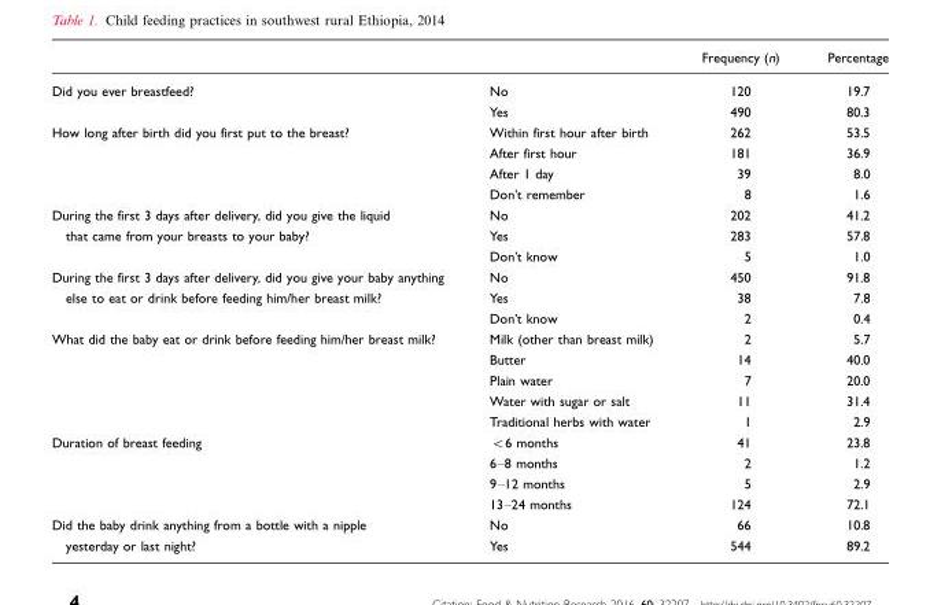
<table><thead><tr><td></td><td></td><td>Frequency (n)</td><td>Percentage</td></tr></thead><tbody><tr><td rowspan="2">Did you ever breastfeed?</td><td>No</td><td>120</td><td>19.7</td></tr><tr><td>Yes</td><td>490</td><td>80.3</td></tr><tr><td rowspan="4">How long after birth did you first put to the breast?</td><td>Within first hour after birth</td><td>262</td><td>53.5</td></tr><tr><td>After first hour</td><td>181</td><td>36.9</td></tr><tr><td>After 1 day</td><td>39</td><td>8.0</td></tr><tr><td>Don’t remember</td><td>8</td><td>1.6</td></tr><tr><td>During the first 3 days after delivery, did you give the liquid</td><td>No</td><td>202</td><td>41.2</td></tr><tr><td rowspan="2">that came from your breasts to your baby?</td><td>Yes</td><td>283</td><td>57.8</td></tr><tr><td>Don’t know</td><td>5</td><td>1.0</td></tr><tr><td>During the first 3 days after delivery, did you give your baby anything</td><td>No</td><td>450</td><td>91.8</td></tr><tr><td rowspan="2">else to eat or drink before feeding him/her breast milk?</td><td>Yes</td><td>38</td><td>7.8</td></tr><tr><td>Don’t know</td><td>2</td><td>0.4</td></tr><tr><td rowspan="5">What did the baby eat or drink before feeding him/her breast milk?</td><td>Milk (other than breast milk)</td><td>2</td><td>5.7</td></tr><tr><td>Butter</td><td>14</td><td>40.0</td></tr><tr><td>Plain water</td><td>7</td><td>20.0</td></tr><tr><td>Water with sugar or salt</td><td>11</td><td>31.4</td></tr><tr><td>Traditional herbs with water</td><td>1</td><td>2.9</td></tr><tr><td rowspan="4">Duration of breast feeding</td><td>&lt;6 months</td><td>41</td><td>23.8</td></tr><tr><td>6–8 months</td><td>2</td><td>1.2</td></tr><tr><td>9–12 months</td><td>5</td><td>2.9</td></tr><tr><td>13–24 months</td><td>124</td><td>72.1</td></tr><tr><td>Did the baby drink anything from a bottle with a nipple</td><td>No</td><td>66</td><td>10.8</td></tr><tr><td>yesterday or last night?</td><td>Yes</td><td>544</td><td>89.2</td></tr></tbody></table>